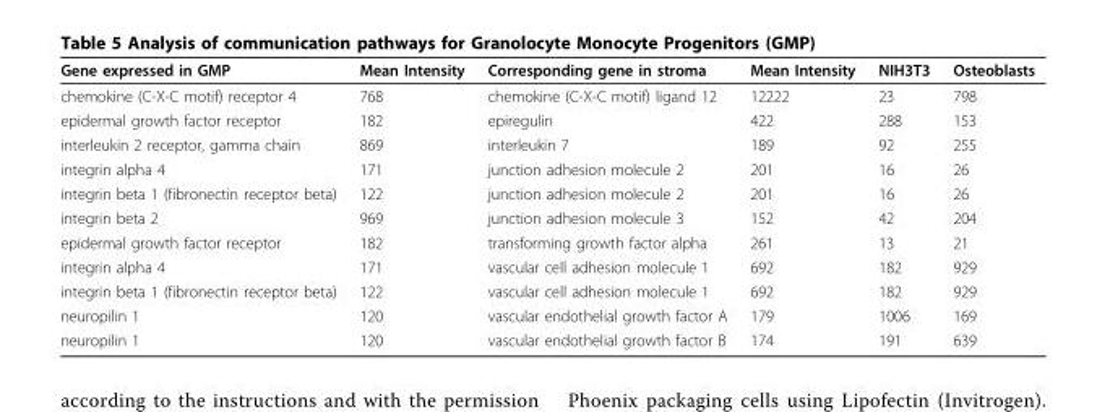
<table><thead><tr><td>Gene expressed in GMP</td><td>Mean Intensity</td><td>Corresponding gene in stroma</td><td>Mean Intensity</td><td>NIH3T3</td><td>Osteoblasts</td></tr></thead><tbody><tr><td>chemokine (C-X-C motif) receptor 4</td><td>768</td><td>chemokine (C-X-C motif) ligand 12</td><td>12222</td><td>23</td><td>798</td></tr><tr><td>epidermal growth factor receptor</td><td>182</td><td>epiregulin</td><td>422</td><td>288</td><td>153</td></tr><tr><td>interleukin 2 receptor, gamma chain</td><td>869</td><td>interleukin 7</td><td>189</td><td>92</td><td>255</td></tr><tr><td>integrin alpha 4</td><td>171</td><td>junction adhesion molecule 2</td><td>201</td><td>16</td><td>26</td></tr><tr><td>integrin beta 1 (fibronectin receptor beta)</td><td>122</td><td>junction adhesion molecule 2</td><td>201</td><td>16</td><td>26</td></tr><tr><td>integrin beta 2</td><td>969</td><td>junction adhesion molecule 3</td><td>152</td><td>42</td><td>204</td></tr><tr><td>epidermal growth factor receptor</td><td>182</td><td>transforming growth factor alpha</td><td>261</td><td>13</td><td>21</td></tr><tr><td>integrin alpha 4</td><td>171</td><td>vascular cell adhesion molecule 1</td><td>692</td><td>182</td><td>929</td></tr><tr><td>integrin beta 1 (fibronectin receptor beta)</td><td>122</td><td>vascular cell adhesion molecule 1</td><td>692</td><td>182</td><td>929</td></tr><tr><td>neuropilin 1</td><td>120</td><td>vascular endothelial growth factor A</td><td>179</td><td>1006</td><td>169</td></tr><tr><td>neuropilin 1</td><td>120</td><td>vascular endothelial growth factor B</td><td>174</td><td>191</td><td>639</td></tr></tbody></table>